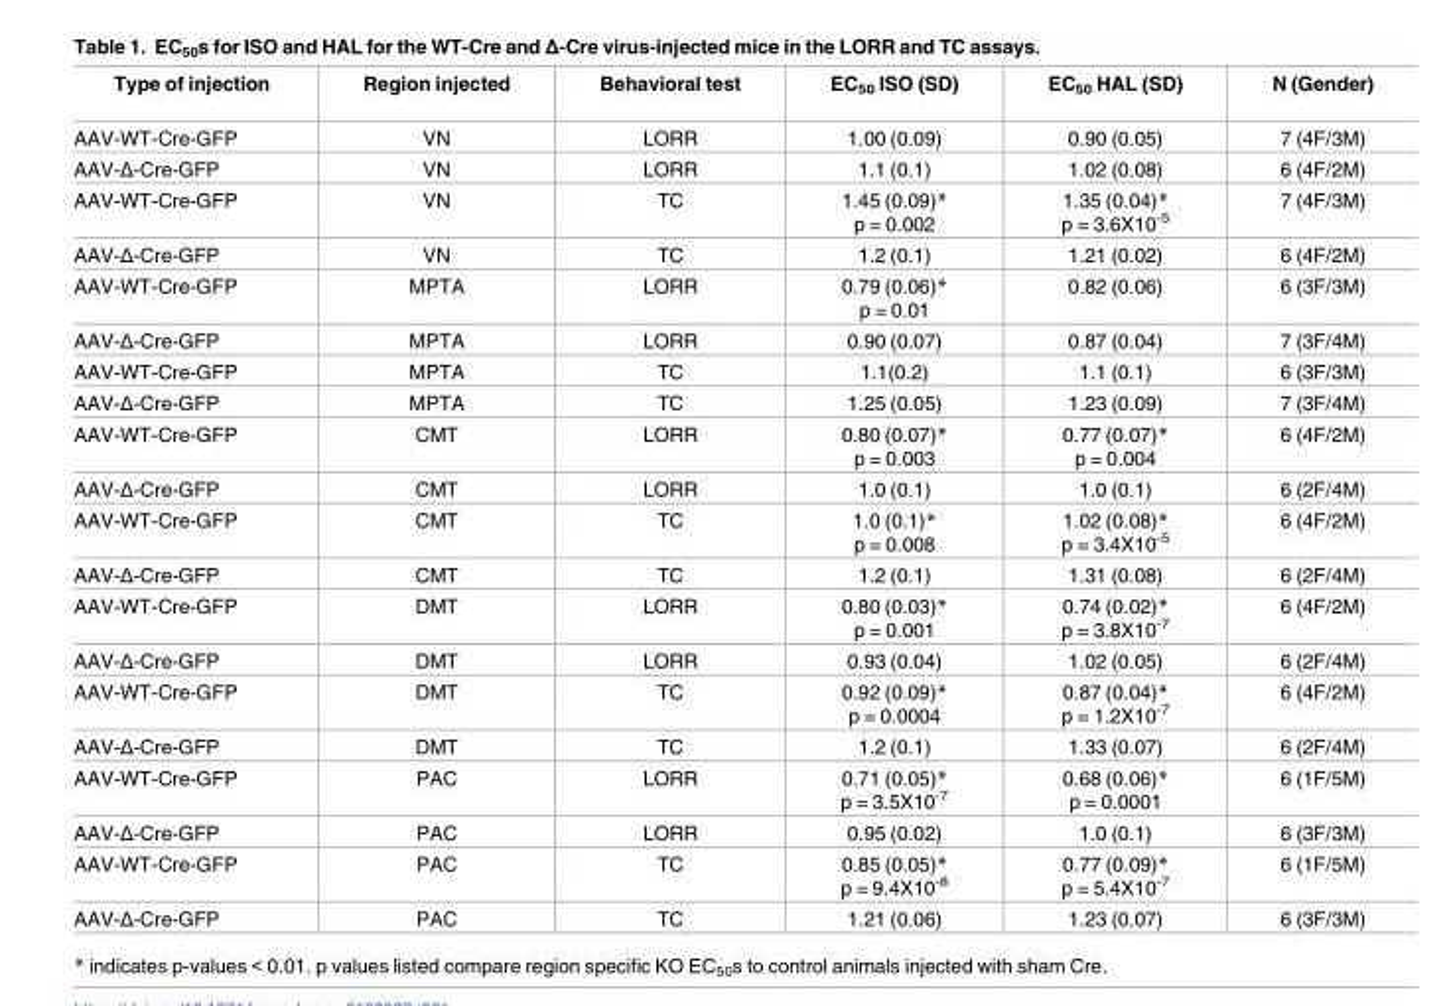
<table><thead><tr><td>Type of injection</td><td>Region injected</td><td>Behavioral test</td><td>EC<sub>50</sub> ISO (SD)</td><td>EC<sub>50</sub> HAL (SD)</td><td>N (Gender)</td></tr></thead><tbody><tr><td>AAV-WT-Cre-GFP</td><td>VN</td><td>LORR</td><td>1.00 (0.09)</td><td>0.90 (0.05)</td><td>7 (4F/3M)</td></tr><tr><td>AAV-Δ-Cre-GFP</td><td>VN</td><td>LORR</td><td>1.1 (0.1)</td><td>1.02 (0.08)</td><td>6 (4F/2M)</td></tr><tr><td>AAV-WT-Cre-GFP</td><td>VN</td><td>TC</td><td>1.45 (0.09)* p = 0.002</td><td>1.35 (0.04)* p = 3.6X10<sup>-5</sup></td><td>7 (4F/3M)</td></tr><tr><td>AAV-Δ-Cre-GFP</td><td>VN</td><td>TC</td><td>1.2 (0.1)</td><td>1.21 (0.02)</td><td>6 (4F/2M)</td></tr><tr><td>AAV-WT-Cre-GFP</td><td>MPTA</td><td>LORR</td><td>0.79 (0.06)* p = 0.01</td><td>0.82 (0.06)</td><td>6 (3F/3M)</td></tr><tr><td>AAV-Δ-Cre-GFP</td><td>MPTA</td><td>LORR</td><td>0.90 (0.07)</td><td>0.87 (0.04)</td><td>7 (3F/4M)</td></tr><tr><td>AAV-WT-Cre-GFP</td><td>MPTA</td><td>TC</td><td>1.1(0.2)</td><td>1.1 (0.1)</td><td>6 (3F/3M)</td></tr><tr><td>AAV-Δ-Cre-GFP</td><td>MPTA</td><td>TC</td><td>1.25 (0.05)</td><td>1.23 (0.09)</td><td>7 (3F/4M)</td></tr><tr><td>AAV-WT-Cre-GFP</td><td>CMT</td><td>LORR</td><td>0.80 (0.07)* p = 0.003</td><td>0.77 (0.07)* p = 0.004</td><td>6 (4F/2M)</td></tr><tr><td>AAV-Δ-Cre-GFP</td><td>CMT</td><td>LORR</td><td>1.0 (0.1)</td><td>1.0 (0.1)</td><td>6 (2F/4M)</td></tr><tr><td>AAV-WT-Cre-GFP</td><td>CMT</td><td>TC</td><td>1.0 (0.1)* p = 0.008</td><td>1.02 (0.08)* p = 3.4X10<sup>-5</sup></td><td>6 (4F/2M)</td></tr><tr><td>AAV-Δ-Cre-GFP</td><td>CMT</td><td>TC</td><td>1.2 (0.1)</td><td>1.31 (0.08)</td><td>6 (2F/4M)</td></tr><tr><td>AAV-WT-Cre-GFP</td><td>DMT</td><td>LORR</td><td>0.80 (0.03)* p = 0.001</td><td>0.74 (0.02)* p = 3.8X10<sup>-7</sup></td><td>6 (4F/2M)</td></tr><tr><td>AAV-Δ-Cre-GFP</td><td>DMT</td><td>LORR</td><td>0.93 (0.04)</td><td>1.02 (0.05)</td><td>6 (2F/4M)</td></tr><tr><td>AAV-WT-Cre-GFP</td><td>DMT</td><td>TC</td><td>0.92 (0.09)* p = 0.0004</td><td>0.87 (0.04)* p = 1.2X10<sup>-7</sup></td><td>6 (4F/2M)</td></tr><tr><td>AAV-Δ-Cre-GFP</td><td>DMT</td><td>TC</td><td>1.2 (0.1)</td><td>1.33 (0.07)</td><td>6 (2F/4M)</td></tr><tr><td>AAV-WT-Cre-GFP</td><td>PAC</td><td>LORR</td><td>0.71 (0.05)* p = 3.5X10<sup>-7</sup></td><td>0.68 (0.06)* p = 0.0001</td><td>6 (1F/5M)</td></tr><tr><td>AAV-Δ-Cre-GFP</td><td>PAC</td><td>LORR</td><td>0.95 (0.02)</td><td>1.0 (0.1)</td><td>6 (3F/3M)</td></tr><tr><td>AAV-WT-Cre-GFP</td><td>PAC</td><td>TC</td><td>0.85 (0.05)* p = 9.4X10<sup>-8</sup></td><td>0.77 (0.09)* p = 5.4X10<sup>-7</sup></td><td>6 (1F/5M)</td></tr><tr><td>AAV-Δ-Cre-GFP</td><td>PAC</td><td>TC</td><td>1.21 (0.06)</td><td>1.23 (0.07)</td><td>6 (3F/3M)</td></tr></tbody></table>